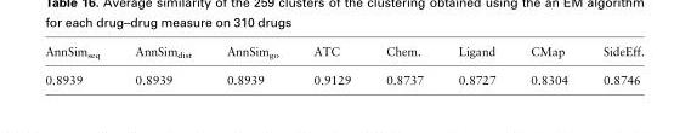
<table><thead><tr><td>AnnSim<sub>seq</sub></td><td>AnnSim<sub>dist</sub></td><td>AnnSim<sub>go</sub></td><td>ATC</td><td>Chem.</td><td>Ligand</td><td>CMap</td><td>SideEff.</td></tr></thead><tbody><tr><td>0.8939</td><td>0.8939</td><td>0.8939</td><td>0.9129</td><td>0.8737</td><td>0.8727</td><td>0.8304</td><td>0.8746</td></tr></tbody></table>